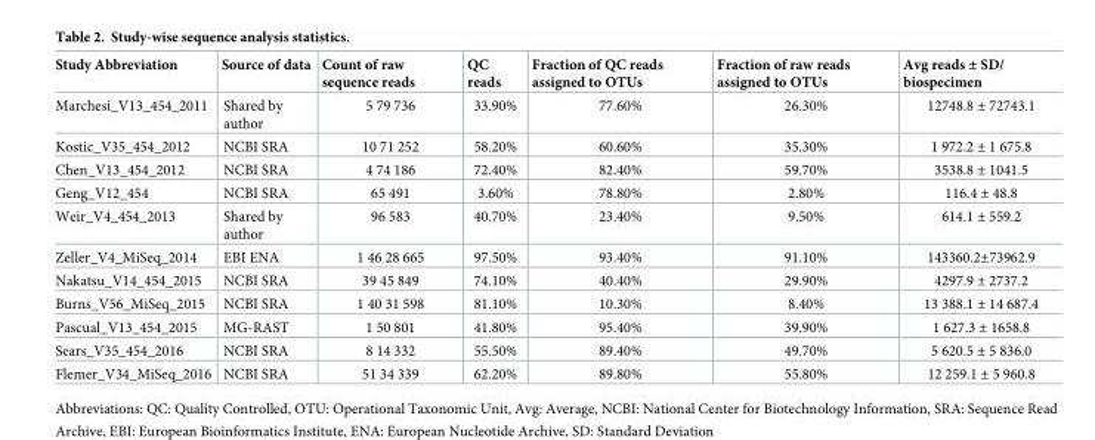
<table><thead><tr><td>Study Abbreviation</td><td>Source of data</td><td>Count of raw sequence reads</td><td>QC reads</td><td>Fraction of QC reads assigned to OTUs</td><td>Fraction of raw reads assigned to OTUs</td><td>Avg reads ± SD/ biospecimen</td></tr></thead><tbody><tr><td>Marchesi_V13_454_2011</td><td>Shared by author</td><td>5 79 736</td><td>33.90%</td><td>77.60%</td><td>26.30%</td><td>12748.8 ± 72743.1</td></tr><tr><td>Kostic_V35_454_2012</td><td>NCBI SRA</td><td>10 71 252</td><td>58.20%</td><td>60.60%</td><td>35.30%</td><td>1 972.2 ± 1 675.8</td></tr><tr><td>Chen_V13_454_2012</td><td>NCBI SRA</td><td>4 74 186</td><td>72.40%</td><td>82.40%</td><td>59.70%</td><td>3538.8 ± 1041.5</td></tr><tr><td>Geng_V12_454</td><td>NCBI SRA</td><td>65 491</td><td>3.60%</td><td>78.80%</td><td>2.80%</td><td>116.4 ± 48.8</td></tr><tr><td>Weir_V4_454_2013</td><td>Shared by author</td><td>96 583</td><td>40.70%</td><td>23.40%</td><td>9.50%</td><td>614.1 ± 559.2</td></tr><tr><td>Zeller_V4_MiSeq_2014</td><td>EBI ENA</td><td>1 46 28 665</td><td>97.50%</td><td>93.40%</td><td>91.10%</td><td>143360.2±73962.9</td></tr><tr><td>Nakatsu_V14_454_2015</td><td>NCBI SRA</td><td>39 45 849</td><td>74.10%</td><td>40.40%</td><td>29.90%</td><td>4297.9 ± 2737.2</td></tr><tr><td>Burns_V56_MiSeq_2015</td><td>NCBI SRA</td><td>1 40 31 598</td><td>81.10%</td><td>10.30%</td><td>8.40%</td><td>13 388.1 ± 14 687.4</td></tr><tr><td>Pascual_V13_454_2015</td><td>MG-RAST</td><td>1 50 801</td><td>41.80%</td><td>95.40%</td><td>39.90%</td><td>1 627.3 ± 1658.8</td></tr><tr><td>Sears_V35_454_2016</td><td>NCBI SRA</td><td>8 14 332</td><td>55.50%</td><td>89.40%</td><td>49.70%</td><td>5 620.5 ± 5 836.0</td></tr><tr><td>Flemer_V34_MiSeq_2016</td><td>NCBI SRA</td><td>51 34 339</td><td>62.20%</td><td>89.80%</td><td>55.80%</td><td>12 259.1 ± 5 960.8</td></tr></tbody></table>